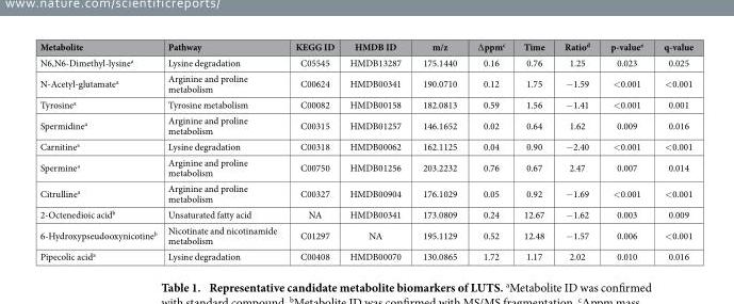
<table><thead><tr><td>Metabolite</td><td>Pathway</td><td>KEGG ID</td><td>HMDB ID</td><td>m/z</td><td>∆ ppm<sup>c</sup></td><td>Time</td><td>Ratio<sup>d</sup></td><td>p-value<sup>e</sup></td><td>q-value</td></tr></thead><tbody><tr><td>N6,N6-Dimethyl-lysine<sup>a</sup></td><td>Lysine degradation</td><td>C05545</td><td>HMDB13287</td><td>175.1440</td><td>0.16</td><td>0.76</td><td>1.25</td><td>0.023</td><td>0.025</td></tr><tr><td>N-Acetyl-glutamate<sup>a</sup></td><td>Arginine and proline metabolism</td><td>C00624</td><td>HMDB00341</td><td>190.0710</td><td>0.12</td><td>1.75</td><td>− 1.59</td><td>&lt; 0.001</td><td>&lt; 0.001</td></tr><tr><td>Tyrosine<sup>a</sup></td><td>Tyrosine metabolism</td><td>C00082</td><td>HMDB00158</td><td>182.0813</td><td>0.59</td><td>1.56</td><td>− 1.41</td><td>&lt; 0.001</td><td>0.001</td></tr><tr><td>Spermidine<sup>a</sup></td><td>Arginine and proline metabolism</td><td>C00315</td><td>HMDB01257</td><td>146.1652</td><td>0.02</td><td>0.64</td><td>1.62</td><td>0.009</td><td>0.016</td></tr><tr><td>Carnitine<sup>a</sup></td><td>Lysine degradation</td><td>C00318</td><td>HMDB00062</td><td>162.1125</td><td>0.04</td><td>0.90</td><td>− 2.40</td><td>&lt; 0.001</td><td>&lt; 0.001</td></tr><tr><td>Spermine<sup>a</sup></td><td>Arginine and proline metabolism</td><td>C00750</td><td>HMDB01256</td><td>203.2232</td><td>0.76</td><td>0.67</td><td>2.47</td><td>0.007</td><td>0.014</td></tr><tr><td>Citrulline<sup>a</sup></td><td>Arginine and proline metabolism</td><td>C00327</td><td>HMDB00904</td><td>176.1029</td><td>0.05</td><td>0.92</td><td>− 1.69</td><td>&lt; 0.001</td><td>&lt; 0.001</td></tr><tr><td>2-Octenedioic acid<sup>b</sup></td><td>Unsaturated fatty acid</td><td>NA</td><td>HMDB00341</td><td>173.0809</td><td>0.24</td><td>12.67</td><td>− 1.62</td><td>0.003</td><td>0.009</td></tr><tr><td>6-Hydroxypseudooxynicotine<sup>b</sup></td><td>Nicotinate and nicotinamide metabolism</td><td>C01297</td><td>NA</td><td>195.1129</td><td>0.52</td><td>12.48</td><td>− 1.57</td><td>0.006</td><td>&lt; 0.001</td></tr><tr><td>Pipecolic acid<sup>a</sup></td><td>Lysine degradation</td><td>C00408</td><td>HMDB00070</td><td>130.0865</td><td>1.72</td><td>1.17</td><td>2.02</td><td>0.010</td><td>0.016</td></tr></tbody></table>